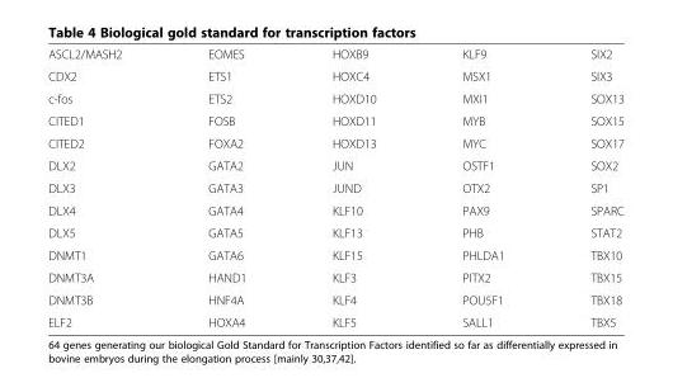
<table><tbody><tr><td>ASCL2/MASH2</td><td>EOMES</td><td>HOXB9</td><td>KLF9</td><td>SIX2</td></tr><tr><td>CDX2</td><td>ETS1</td><td>HOXC4</td><td>MSX1</td><td>SIX3</td></tr><tr><td>c-fos</td><td>ETS2</td><td>HOXD10</td><td>MXI1</td><td>SOX13</td></tr><tr><td>CITED1</td><td>FOSB</td><td>HOXD11</td><td>MYB</td><td>SOX15</td></tr><tr><td>CITED2</td><td>FOXA2</td><td>HOXD13</td><td>MYC</td><td>SOX17</td></tr><tr><td>DLX2</td><td>GATA2</td><td>JUN</td><td>OSTF1</td><td>SOX2</td></tr><tr><td>DLX3</td><td>GATA3</td><td>JUND</td><td>OTX2</td><td>SP1</td></tr><tr><td>DLX4</td><td>GATA4</td><td>KLF10</td><td>PAX9</td><td>SPARC</td></tr><tr><td>DLX5</td><td>GATA5</td><td>KLF13</td><td>PHB</td><td>STAT2</td></tr><tr><td>DNMT1</td><td>GATA6</td><td>KLF15</td><td>PHLDA1</td><td>TBX10</td></tr><tr><td>DNMT3A</td><td>HAND1</td><td>KLF3</td><td>PITX2</td><td>TBX15</td></tr><tr><td>DNMT3B</td><td>HNF4A</td><td>KLF4</td><td>POU5F1</td><td>TBX18</td></tr><tr><td>ELF2</td><td>HOXA4</td><td>KLF5</td><td>SALL1</td><td>TBX5</td></tr></tbody></table>